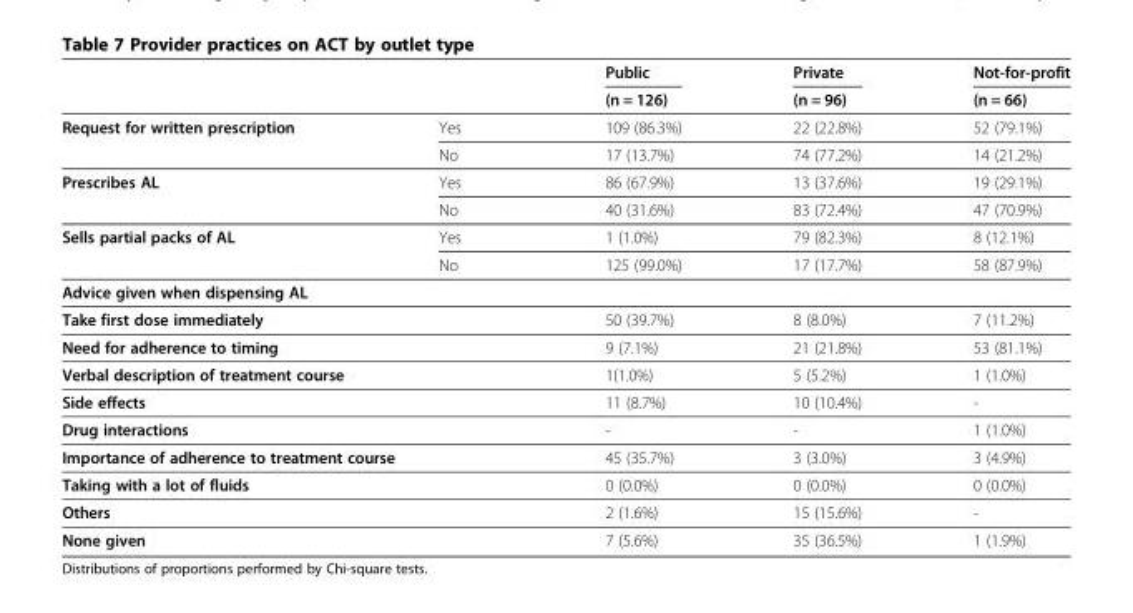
<table><thead><tr><td rowspan="2"></td><td rowspan="2"></td><td rowspan="2">Public (n = 126)</td><td rowspan="2">Private (n = 96)</td><td rowspan="2">Not-for-profit (n = 66)</td></tr><tr></tr></thead><tbody><tr><td rowspan="2">Request for written prescription</td><td>Yes</td><td>109 (86.3%)</td><td>22 (22.8%)</td><td>52 (79.1%)</td></tr><tr><td>No</td><td>17 (13.7%)</td><td>74 (77.2%)</td><td>14 (21.2%)</td></tr><tr><td rowspan="2">Prescribes AL</td><td>Yes</td><td>86 (67.9%)</td><td>13 (37.6%)</td><td>19 (29.1%)</td></tr><tr><td>No</td><td>40 (31.6%)</td><td>83 (72.4%)</td><td>47 (70.9%)</td></tr><tr><td rowspan="2">Sells partial packs of AL</td><td>Yes</td><td>1 (1.0%)</td><td>79 (82.3%)</td><td>8 (12.1%)</td></tr><tr><td>No</td><td>125 (99.0%)</td><td>17 (17.7%)</td><td>58 (87.9%)</td></tr><tr><td colspan="5">Advice given when dispensing AL</td></tr><tr><td colspan="2">Take first dose immediately</td><td>50 (39.7%)</td><td>8 (8.0%)</td><td>7 (11.2%)</td></tr><tr><td colspan="2">Need for adherence to timing</td><td>9 (7.1%)</td><td>21 (21.8%)</td><td>53 (81.1%)</td></tr><tr><td colspan="2">Verbal description of treatment course</td><td>1(1.0%)</td><td>5 (5.2%)</td><td>1 (1.0%)</td></tr><tr><td colspan="2">Side effects</td><td>11 (8.7%)</td><td>10 (10.4%)</td><td>-</td></tr><tr><td colspan="2">Drug interactions</td><td>-</td><td>-</td><td>1 (1.0%)</td></tr><tr><td colspan="2">Importance of adherence to treatment course</td><td>45 (35.7%)</td><td>3 (3.0%)</td><td>3 (4.9%)</td></tr><tr><td colspan="2">Taking with a lot of fluids</td><td>0 (0.0%)</td><td>0 (0.0%)</td><td>0 (0.0%)</td></tr><tr><td colspan="2">Others</td><td>2 (1.6%)</td><td>15 (15.6%)</td><td>-</td></tr><tr><td colspan="2">None given</td><td>7 (5.6%)</td><td>35 (36.5%)</td><td>1 (1.9%)</td></tr></tbody></table>